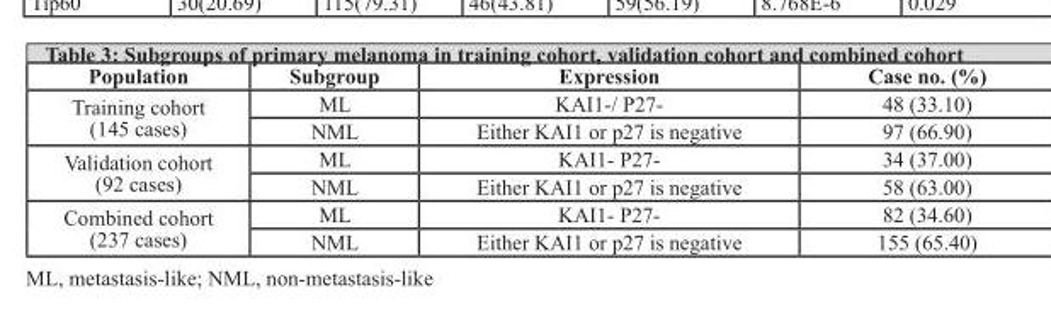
<table><thead><tr><td>Population</td><td>Subgroup</td><td>Expression</td><td>Case no. (%)</td></tr></thead><tbody><tr><td rowspan="2">Training cohort (145 cases)</td><td>ML</td><td>KAI1-/ P27-</td><td>48 (33.10)</td></tr><tr><td>NML</td><td>Either KAI1 or p27 is negative</td><td>97 (66.90)</td></tr><tr><td rowspan="2">Validation cohort (92 cases)</td><td>ML</td><td>KAI1- P27-</td><td>34 (37.00)</td></tr><tr><td>NML</td><td>Either KAI1 or p27 is negative</td><td>58 (63.00)</td></tr><tr><td rowspan="2">Combined cohort (237 cases)</td><td>ML</td><td>KAI1- P27-</td><td>82 (34.60)</td></tr><tr><td>NML</td><td>Either KAI1 or p27 is negative</td><td>155 (65.40)</td></tr></tbody></table>